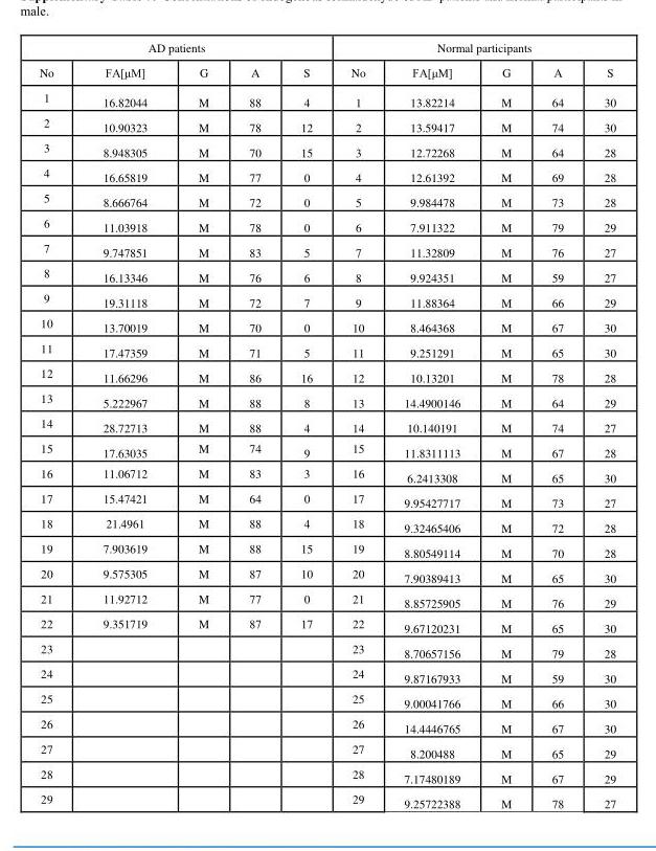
<table><thead><tr><td colspan="5">AD patients</td><td colspan="5">Normal participants</td></tr><tr><td>No</td><td>FA[μM]</td><td>G</td><td>A</td><td>S</td><td>No</td><td>FA[μM]</td><td>G</td><td>A</td><td>S</td></tr></thead><tbody><tr><td>1</td><td>16.82044</td><td>M</td><td>88</td><td>4</td><td>1</td><td>13.82214</td><td>M</td><td>64</td><td>30</td></tr><tr><td>2</td><td>10.90323</td><td>M</td><td>78</td><td>12</td><td>2</td><td>13.59417</td><td>M</td><td>74</td><td>30</td></tr><tr><td>3</td><td>8.948305</td><td>M</td><td>70</td><td>15</td><td>3</td><td>12.72268</td><td>M</td><td>64</td><td>28</td></tr><tr><td>4</td><td>16.65819</td><td>M</td><td>77</td><td>0</td><td>4</td><td>12.61392</td><td>M</td><td>69</td><td>28</td></tr><tr><td>5</td><td>8.666764</td><td>M</td><td>72</td><td>0</td><td>5</td><td>9.984478</td><td>M</td><td>73</td><td>28</td></tr><tr><td>6</td><td>11.03918</td><td>M</td><td>78</td><td>0</td><td>6</td><td>7.911322</td><td>M</td><td>79</td><td>29</td></tr><tr><td>7</td><td>9.747851</td><td>M</td><td>83</td><td>5</td><td>7</td><td>11.32809</td><td>M</td><td>76</td><td>27</td></tr><tr><td>8</td><td>16.13346</td><td>M</td><td>76</td><td>6</td><td>8</td><td>9.924351</td><td>M</td><td>59</td><td>27</td></tr><tr><td>9</td><td>19.31118</td><td>M</td><td>72</td><td>7</td><td>9</td><td>11.88364</td><td>M</td><td>66</td><td>29</td></tr><tr><td>10</td><td>13.70019</td><td>M</td><td>70</td><td>0</td><td>10</td><td>8.464368</td><td>M</td><td>67</td><td>30</td></tr><tr><td>11</td><td>17.47359</td><td>M</td><td>71</td><td>5</td><td>11</td><td>9.251291</td><td>M</td><td>65</td><td>30</td></tr><tr><td>12</td><td>11.66296</td><td>M</td><td>86</td><td>16</td><td>12</td><td>10.13201</td><td>M</td><td>78</td><td>28</td></tr><tr><td>13</td><td>5.222967</td><td>M</td><td>88</td><td>8</td><td>13</td><td>14.4900146</td><td>M</td><td>64</td><td>29</td></tr><tr><td>14</td><td>28.72713</td><td>M</td><td>88</td><td>4</td><td>14</td><td>10.140191</td><td>M</td><td>74</td><td>27</td></tr><tr><td>15</td><td>17.63035</td><td>M</td><td>74</td><td>9</td><td>15</td><td>11.8311113</td><td>M</td><td>67</td><td>28</td></tr><tr><td>16</td><td>11.06712</td><td>M</td><td>83</td><td>3</td><td>16</td><td>6.2413308</td><td>M</td><td>65</td><td>30</td></tr><tr><td>17</td><td>15.47421</td><td>M</td><td>64</td><td>0</td><td>17</td><td>9.95427717</td><td>M</td><td>73</td><td>27</td></tr><tr><td>18</td><td>21.4961</td><td>M</td><td>88</td><td>4</td><td>18</td><td>9.32465406</td><td>M</td><td>72</td><td>28</td></tr><tr><td>19</td><td>7.903619</td><td>M</td><td>88</td><td>15</td><td>19</td><td>8.80549114</td><td>M</td><td>70</td><td>28</td></tr><tr><td>20</td><td>9.575305</td><td>M</td><td>87</td><td>10</td><td>20</td><td>7.90389413</td><td>M</td><td>65</td><td>30</td></tr><tr><td>21</td><td>11.92712</td><td>M</td><td>77</td><td>0</td><td>21</td><td>8.85725905</td><td>M</td><td>76</td><td>29</td></tr><tr><td>22</td><td>9.351719</td><td>M</td><td>87</td><td>17</td><td>22</td><td>9.67120231</td><td>M</td><td>65</td><td>30</td></tr><tr><td>23</td><td></td><td></td><td></td><td></td><td>23</td><td>8.70657156</td><td>M</td><td>79</td><td>28</td></tr><tr><td>24</td><td></td><td></td><td></td><td></td><td>24</td><td>9.87167933</td><td>M</td><td>59</td><td>30</td></tr><tr><td>25</td><td></td><td></td><td></td><td></td><td>25</td><td>9.00041766</td><td>M</td><td>66</td><td>30</td></tr><tr><td>26</td><td></td><td></td><td></td><td></td><td>26</td><td>14.4446765</td><td>M</td><td>67</td><td>30</td></tr><tr><td>27</td><td></td><td></td><td></td><td></td><td>27</td><td>8.200488</td><td>M</td><td>65</td><td>29</td></tr><tr><td>28</td><td></td><td></td><td></td><td></td><td>28</td><td>7.17480189</td><td>M</td><td>67</td><td>29</td></tr><tr><td>29</td><td></td><td></td><td></td><td></td><td>29</td><td>9.25722388</td><td>M</td><td>78</td><td>27</td></tr></tbody></table>